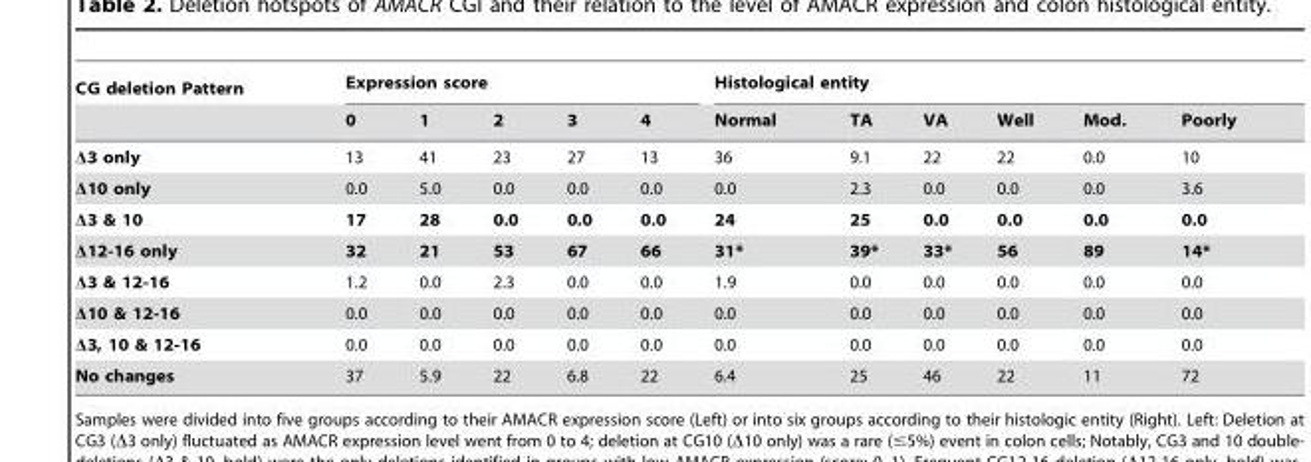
<table><thead><tr><td rowspan="2">CG deletion Pattern</td><td colspan="5">Expression score</td><td colspan="6">Histological entity</td></tr><tr><td>0</td><td>1</td><td>2</td><td>3</td><td>4</td><td>Normal</td><td>TA</td><td>VA</td><td>Well</td><td>Mod.</td><td>Poorly</td></tr></thead><tbody><tr><td>Δ3 only</td><td>13</td><td>41</td><td>23</td><td>27</td><td>13</td><td>36</td><td>9.1</td><td>22</td><td>22</td><td>0.0</td><td>10</td></tr><tr><td>Δ10 only</td><td>0.0</td><td>5.0</td><td>0.0</td><td>0.0</td><td>0.0</td><td>0.0</td><td>2.3</td><td>0.0</td><td>0.0</td><td>0.0</td><td>3.6</td></tr><tr><td>Δ3 &amp; 10</td><td>17</td><td>28</td><td>0.0</td><td>0.0</td><td>0.0</td><td>24</td><td>25</td><td>0.0</td><td>0.0</td><td>0.0</td><td>0.0</td></tr><tr><td>Δ12-16 only</td><td>32</td><td>21</td><td>53</td><td>67</td><td>66</td><td>31*</td><td>39*</td><td>33*</td><td>56</td><td>89</td><td>14*</td></tr><tr><td>Δ3 &amp; 12-16</td><td>1.2</td><td>0.0</td><td>2.3</td><td>0.0</td><td>0.0</td><td>1.9</td><td>0.0</td><td>0.0</td><td>0.0</td><td>0.0</td><td>0.0</td></tr><tr><td>Δ10 &amp; 12-16</td><td>0.0</td><td>0.0</td><td>0.0</td><td>0.0</td><td>0.0</td><td>0.0</td><td>0.0</td><td>0.0</td><td>0.0</td><td>0.0</td><td>0.0</td></tr><tr><td>Δ3, 10 &amp; 12-16</td><td>0.0</td><td>0.0</td><td>0.0</td><td>0.0</td><td>0.0</td><td>0.0</td><td>0.0</td><td>0.0</td><td>0.0</td><td>0.0</td><td>0.0</td></tr><tr><td>No changes</td><td>37</td><td>5.9</td><td>22</td><td>6.8</td><td>22</td><td>6.4</td><td>25</td><td>46</td><td>22</td><td>11</td><td>72</td></tr></tbody></table>